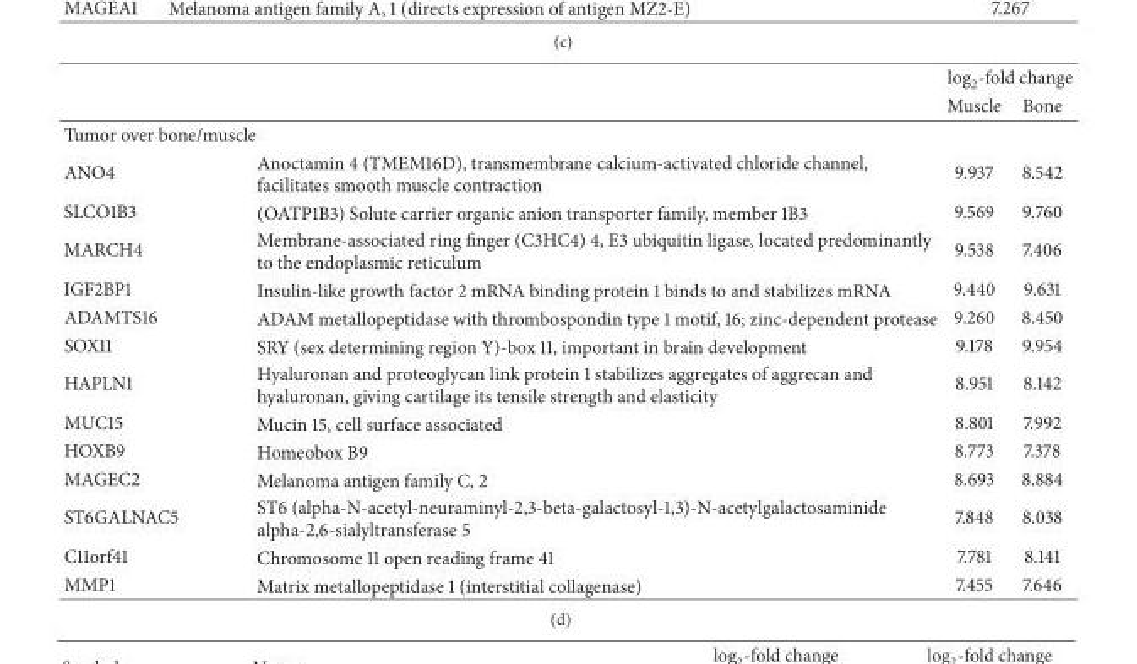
<table><thead><tr><td rowspan="2"></td><td rowspan="2"></td><td colspan="2">log<sub>2</sub>-fold change</td></tr><tr><td>Muscle</td><td>Bone</td></tr></thead><tbody><tr><td colspan="4">Tumor over bone/muscle</td></tr><tr><td>ANO4</td><td>Anoctamin 4 (TMEM16D), transmembrane calcium-activated chloride channel, facilitates smooth muscle contraction</td><td>9.937</td><td>8.542</td></tr><tr><td>SLCO1B3</td><td>(OATP1B3) Solute carrier organic anion transporter family, member 1B3</td><td>9.569</td><td>9.760</td></tr><tr><td>MARCH4</td><td>Membrane-associated ring finger (C3HC4) 4, E3 ubiquitin ligase, located predominantly to the endoplasmic reticulum</td><td>9.538</td><td>7.406</td></tr><tr><td>IGF2BP1</td><td>Insulin-like growth factor 2 mRNA binding protein 1 binds to and stabilizes mRNA</td><td>9.440</td><td>9.631</td></tr><tr><td>ADAMTS16</td><td>ADAM metallopeptidase with thrombospondin type 1 motif, 16; zinc-dependent protease</td><td>9.260</td><td>8.450</td></tr><tr><td>SOX11</td><td>SRY (sex determining region Y)-box 11, important in brain development</td><td>9.178</td><td>9.954</td></tr><tr><td>HAPLN1</td><td>Hyaluronan and proteoglycan link protein 1 stabilizes aggregates of aggrecan and hyaluronan, giving cartilage its tensile strength and elasticity</td><td>8.951</td><td>8.142</td></tr><tr><td>MUC15</td><td>Mucin 15, cell surface associated</td><td>8.801</td><td>7.992</td></tr><tr><td>HOXB9</td><td>Homeobox B9</td><td>8.773</td><td>7.378</td></tr><tr><td>MAGEC2</td><td>Melanoma antigen family C, 2</td><td>8.693</td><td>8.884</td></tr><tr><td>ST6GALNAC5</td><td>ST6 (alpha-N-acetyl-neuraminyl-2,3-beta-galactosyl-1,3)-N-acetylgalactosaminide alpha-2,6-sialyltransferase 5</td><td>7.848</td><td>8.038</td></tr><tr><td>C11orf41</td><td>Chromosome 11 open reading frame 41</td><td>7.781</td><td>8.141</td></tr><tr><td>MMP1</td><td>Matrix metallopeptidase 1 (interstitial collagenase)</td><td>7.455</td><td>7.646</td></tr></tbody></table>